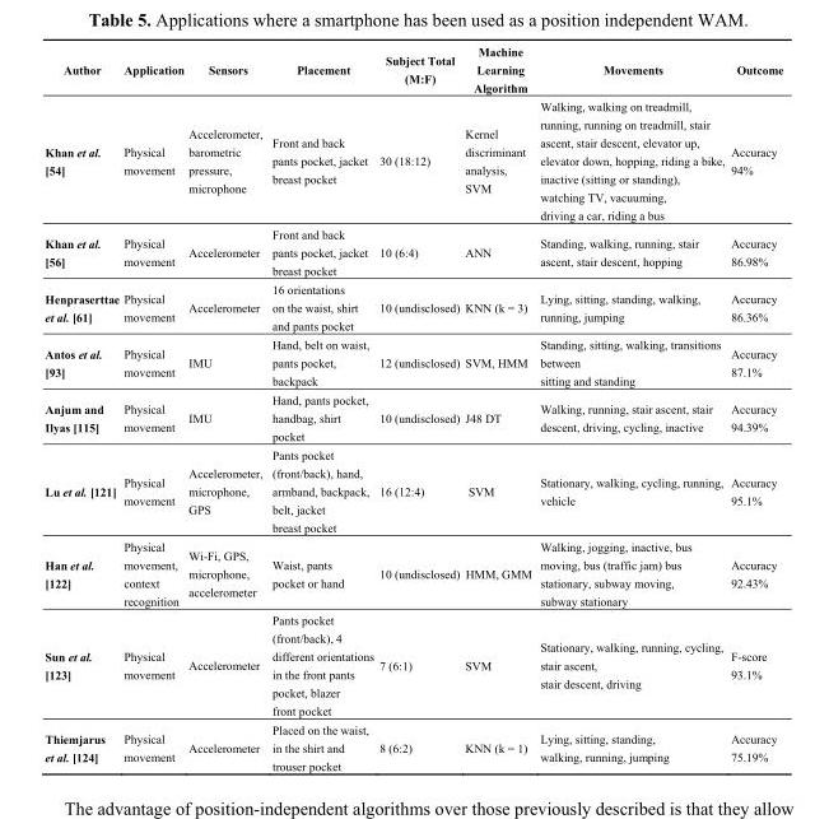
<table><thead><tr><td>Author</td><td>Application</td><td>Sensors</td><td>Placement</td><td>Subject Total (M:F)</td><td>Machine Learning Algorithm</td><td>Movements</td><td>Outcome</td></tr></thead><tbody><tr><td>Khan et al. [54]</td><td>Physical movement</td><td>Accelerometer, barometric pressure, microphone</td><td>Front and back pants pocket, jacket breast pocket</td><td>30 (18:12)</td><td>Kernel discriminant analysis, SVM</td><td>Walking, walking on treadmill, running, running on treadmill, stair ascent, stair descent, elevator up, elevator down, hopping, riding a bike, inactive (sitting or standing), watching TV, vacuuming, driving a car, riding a bus</td><td>Accuracy 94%</td></tr><tr><td>Khan et al. [56]</td><td>Physical movement</td><td>Accelerometer</td><td>Front and back pants pocket, jacket breast pocket</td><td>10 (6:4)</td><td>ANN</td><td>Standing, walking, running, stair ascent, stair descent, hopping</td><td>Accuracy 86.98%</td></tr><tr><td>Henpraserttae et al. [61]</td><td>Physical movement</td><td>Accelerometer</td><td>16 orientations on the waist, shirt and pants pocket</td><td>10 (undisclosed)</td><td>KNN (k = 3)</td><td>Lying, sitting, standing, walking, running, jumping</td><td>Accuracy 86.36%</td></tr><tr><td>Antos et al. [93]</td><td>Physical movement</td><td>IMU</td><td>Hand, belt on waist, pants pocket, backpack</td><td>12 (undisclosed)</td><td>SVM, HMM</td><td>Standing, sitting, walking, transitions between sitting and standing</td><td>Accuracy 87.1%</td></tr><tr><td>Anjum and Ilyas [115]</td><td>Physical movement</td><td>IMU</td><td>Hand, pants pocket, handbag, shirt pocket</td><td>10 (undisclosed)</td><td>J48 DT</td><td>Walking, running, stair ascent, stair descent, driving, cycling, inactive</td><td>Accuracy 94.39%</td></tr><tr><td>Lu et al. [121]</td><td>Physical movement</td><td>Accelerometer, microphone, GPS</td><td>Pants pocket (front/back), hand, armband, backpack, belt, jacket breast pocket</td><td>16 (12:4)</td><td>SVM</td><td>Stationary, walking, cycling, running, vehicle</td><td>Accuracy 95.1%</td></tr><tr><td>Han et al. [122]</td><td>Physical movement, context recognition</td><td>Wi-Fi, GPS, microphone, accelerometer</td><td>Waist, pants pocket or hand</td><td>10 (undisclosed)</td><td>HMM, GMM</td><td>Walking, jogging, inactive, bus moving, bus (traffic jam) bus stationary, subway moving, subway stationary</td><td>Accuracy 92.43%</td></tr><tr><td>Sun et al. [123]</td><td>Physical movement</td><td>Accelerometer</td><td>Pants pocket (front/back), 4 different orientations in the front pants pocket, blazer front pocket</td><td>7 (6:1)</td><td>SVM</td><td>Stationary, walking, running, cycling, stair ascent, stair descent, driving</td><td>F-score 93.1%</td></tr><tr><td>Thiemjarus et al. [124]</td><td>Physical movement</td><td>Accelerometer</td><td>Placed on the waist, in the shirt and trouser pocket</td><td>8 (6:2)</td><td>KNN (k = 1)</td><td>Lying, sitting, standing, walking, running, jumping</td><td>Accuracy 75.19%</td></tr></tbody></table>